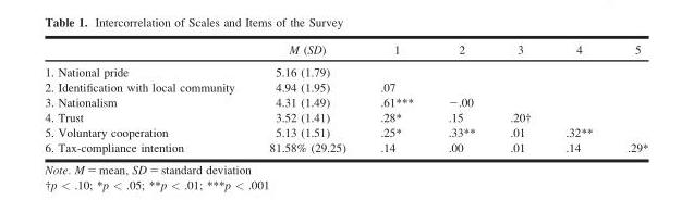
<table><thead><tr><td></td><td>M (SD)</td><td>1</td><td>2</td><td>3</td><td>4</td><td>5</td></tr></thead><tbody><tr><td>1. National pride</td><td>5.16 (1.79)</td><td></td><td></td><td></td><td></td><td></td></tr><tr><td>2. Identification with local community</td><td>4.94 (1.95)</td><td>.07</td><td></td><td></td><td></td><td></td></tr><tr><td>3. Nationalism</td><td>4.31 (1.49)</td><td>.61***</td><td>−.00</td><td></td><td></td><td></td></tr><tr><td>4. Trust</td><td>3.52 (1.41)</td><td>.28*</td><td>.15</td><td>.20†</td><td></td><td></td></tr><tr><td>5. Voluntary cooperation</td><td>5.13 (1.51)</td><td>.25*</td><td>.33**</td><td>.01</td><td>.32**</td><td></td></tr><tr><td>6. Tax-compliance intention</td><td>81.58% (29.25)</td><td>.14</td><td>.00</td><td>.01</td><td>.14</td><td>.29*</td></tr></tbody></table>